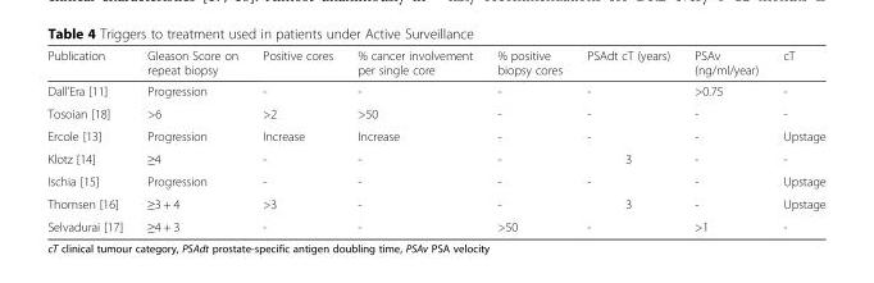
<table><thead><tr><td>Publication</td><td>Gleason Score on repeat biopsy</td><td>Positive cores</td><td>% cancer involvement per single core</td><td>% positive biopsy cores</td><td>PSAdt cT (years)</td><td>PSAv (ng/ml/year)</td><td>cT</td></tr></thead><tbody><tr><td>Dall’Era [11]</td><td>Progression</td><td>-</td><td>-</td><td>-</td><td>-</td><td>&gt;0.75</td><td>-</td></tr><tr><td>Tosoian [18]</td><td>&gt;6</td><td>&gt;2</td><td>&gt;50</td><td>-</td><td>-</td><td>-</td><td>-</td></tr><tr><td>Ercole [13]</td><td>Progression</td><td>Increase</td><td>Increase</td><td>-</td><td>-</td><td>-</td><td>Upstage</td></tr><tr><td>Klotz [14]</td><td>≥4</td><td>-</td><td>-</td><td>-</td><td>3</td><td>-</td><td>-</td></tr><tr><td>Ischia [15]</td><td>Progression</td><td>-</td><td>-</td><td>-</td><td>-</td><td>-</td><td>Upstage</td></tr><tr><td>Thomsen [16]</td><td>≥3 + 4</td><td>&gt;3</td><td>-</td><td>-</td><td>3</td><td>-</td><td>Upstage</td></tr><tr><td>Selvadurai [17]</td><td>≥4 + 3</td><td>-</td><td>-</td><td>&gt;50</td><td>-</td><td>&gt;1</td><td>-</td></tr></tbody></table>